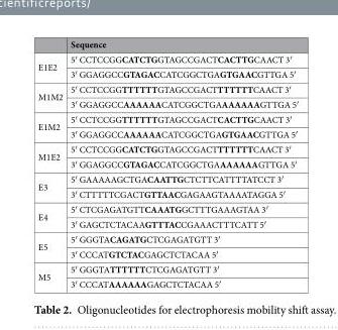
<table><thead><tr><td></td><td>Sequence</td></tr></thead><tbody><tr><td rowspan="2">E1E2</td><td>5′ CCTCCGGCATCTGGTAGCCGACTCACTTGCAACT 3′</td></tr><tr><td>3′ GGAGGCCGTAGACCATCGGCTGAGTGAACGTTGA 5′</td></tr><tr><td rowspan="2">M1M2</td><td>5′ CCTCCGGTTTTTTGTAGCCGACTTTTTTTCAACT 3′</td></tr><tr><td>3′ GGAGGCCAAAAAACATCGGCTGAAAAAAAGTTGA 5′</td></tr><tr><td rowspan="2">E1M2</td><td>5′ CCTCCGGTTTTTTGTAGCCGACTCACTTGCAACT 3′</td></tr><tr><td>3′ GGAGGCCAAAAAACATCGGCTGAGTGAACGTTGA 5′</td></tr><tr><td rowspan="2">M1E2</td><td>5′ CCTCCGGCATCTGGTAGCCGACTTTTTTTCAACT 3′</td></tr><tr><td>3′ GGAGGCCGTAGACCATCGGCTGAAAAAAAGTTGA 5′</td></tr><tr><td rowspan="2">E3</td><td>5′ GAAAAAGCTGACAATTGCTCTTCATTTTATCCT 3′</td></tr><tr><td>3′ CTTTTTCGACTGTTAACGAGAAGTAAAATAGGA 5′</td></tr><tr><td rowspan="2">E4</td><td>5′ CTCGAGATGTTCAAATGGCTTTGAAAGTAA 3′</td></tr><tr><td>3′ GAGCTCTACAAGTTTACCGAAACTTTCATT 5′</td></tr><tr><td rowspan="2">E5</td><td>5′ GGGTACAGATGCTCGAGATGTT 3′</td></tr><tr><td>3′ CCCATGTCTACGAGCTCTACAA 5′</td></tr><tr><td rowspan="2">M5</td><td>5′ GGGTATTTTTTCTCGAGATGTT 3′</td></tr><tr><td>3′ CCCATAAAAAAGAGCTCTACAA 5′</td></tr></tbody></table>